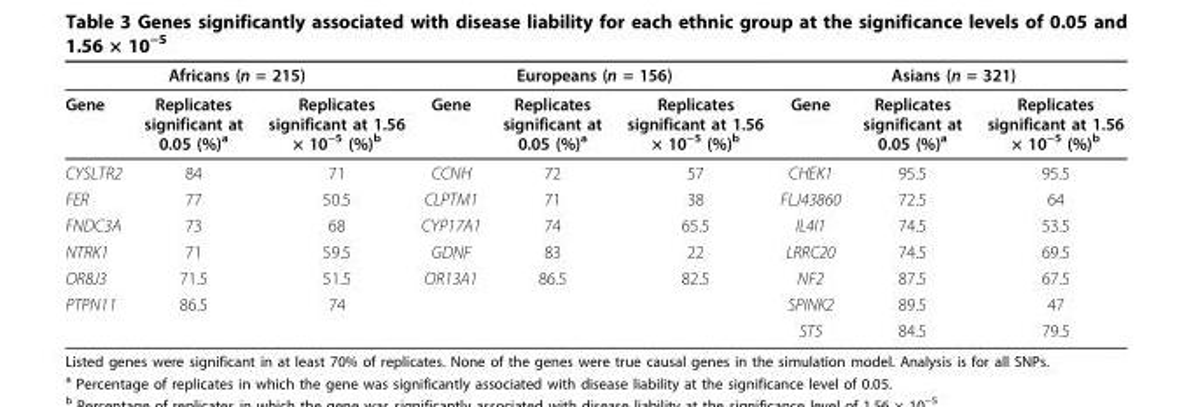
<table><thead><tr><td colspan="3">Africans (n = 215)</td><td colspan="3">Europeans (n = 156)</td><td colspan="3">Asians (n = 321)</td></tr><tr><td>Gene</td><td>Replicates significant at 0.05 (%)<sup>a</sup></td><td>Replicates significant at 1.56 × 10<sup>−5</sup> (%)<sup>b</sup></td><td>Gene</td><td>Replicates significant at 0.05 (%)<sup>a</sup></td><td>Replicates significant at 1.56 × 10<sup>−5</sup> (%)<sup>b</sup></td><td>Gene</td><td>Replicates significant at 0.05 (%)<sup>a</sup></td><td>Replicates significant at 1.56 × 10<sup>−5</sup> (%)<sup>b</sup></td></tr></thead><tbody><tr><td>CYSLTR2</td><td>84</td><td>71</td><td>CCNH</td><td>72</td><td>57</td><td>CHEK1</td><td>95.5</td><td>95.5</td></tr><tr><td>FER</td><td>77</td><td>50.5</td><td>CLPTM1</td><td>71</td><td>38</td><td>FLJ43860</td><td>72.5</td><td>64</td></tr><tr><td>FNDC3A</td><td>73</td><td>68</td><td>CYP17A1</td><td>74</td><td>65.5</td><td>IL4I1</td><td>74.5</td><td>53.5</td></tr><tr><td>NTRK1</td><td>71</td><td>59.5</td><td>GDNF</td><td>83</td><td>22</td><td>LRRC20</td><td>74.5</td><td>69.5</td></tr><tr><td>OR8J3</td><td>71.5</td><td>51.5</td><td>OR13A1</td><td>86.5</td><td>82.5</td><td>NF2</td><td>87.5</td><td>67.5</td></tr><tr><td rowspan="2">PTPN11</td><td>86.5</td><td>74</td><td></td><td></td><td></td><td>SPINK2</td><td>89.5</td><td>47</td></tr><tr><td></td><td></td><td></td><td></td><td></td><td>ST5</td><td>84.5</td><td>79.5</td></tr></tbody></table>